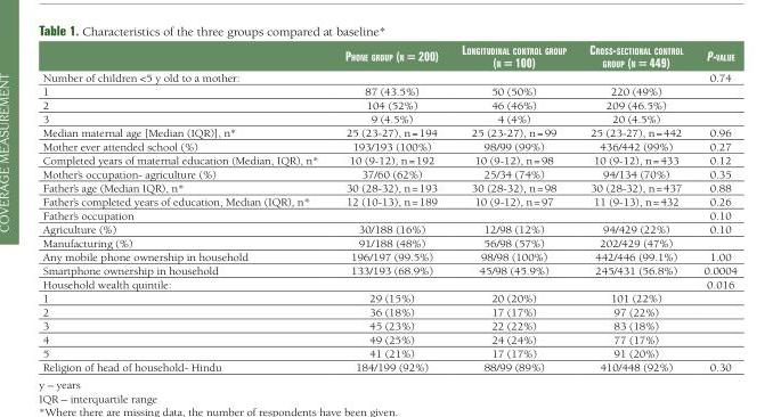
<table><thead><tr><td></td><td>Phone grouP (n = 200)</td><td>LongitudinaL controL grouP (n = 100)</td><td>cross-sectionaL controL grouP (n = 449)</td><td>P-vaLue</td></tr></thead><tbody><tr><td>Number of children &lt;5 y old to a mother:</td><td></td><td></td><td></td><td>0.74</td></tr><tr><td>1</td><td>87 (43.5%)</td><td>50 (50%)</td><td>220 (49%)</td><td></td></tr><tr><td>2</td><td>104 (52%)</td><td>46 (46%)</td><td>209 (46.5%)</td><td></td></tr><tr><td>3</td><td>9 (4.5%)</td><td>4 (4%)</td><td>20 (4.5%)</td><td></td></tr><tr><td>Median maternal age [Median (IQR)], n*</td><td>25 (23-27), n = 194</td><td>25 (23-27), n = 99</td><td>25 (23-27), n = 442</td><td>0.96</td></tr><tr><td>Mother ever attended school (%)</td><td>193/193 (100%)</td><td>98/99 (99%)</td><td>436/442 (99%)</td><td>0.27</td></tr><tr><td>Completed years of maternal education (Median, IQR), n*</td><td>10 (9-12), n = 192</td><td>10 (9-12), n = 98</td><td>10 (9-12), n = 433</td><td>0.12</td></tr><tr><td>Mother’s occupation- agriculture (%)</td><td>37/60 (62%)</td><td>25/34 (74%)</td><td>94/134 (70%)</td><td>0.35</td></tr><tr><td>Father’s age (Median IQR), n*</td><td>30 (28-32), n = 193</td><td>30 (28-32), n = 98</td><td>30 (28-32), n = 437</td><td>0.88</td></tr><tr><td>Father’s completed years of education, Median (IQR), n*</td><td>12 (10-13), n = 189</td><td>10 (9-12), n = 97</td><td>11 (9-13), n = 432</td><td>0.26</td></tr><tr><td>Father’s occupation</td><td></td><td></td><td></td><td>0.10</td></tr><tr><td>Agriculture (%)</td><td>30/188 (16%)</td><td>12/98 (12%)</td><td>94/429 (22%)</td><td>0.10</td></tr><tr><td>Manufacturing (%)</td><td>91/188 (48%)</td><td>56/98 (57%)</td><td>202/429 (47%)</td><td></td></tr><tr><td>Any mobile phone ownership in household</td><td>196/197 (99.5%)</td><td>98/98 (100%)</td><td>442/446 (99.1%)</td><td>1.00</td></tr><tr><td>Smartphone ownership in household</td><td>133/193 (68.9%)</td><td>45/98 (45.9%)</td><td>245/431 (56.8%)</td><td>0.0004</td></tr><tr><td>Household wealth quintile:</td><td></td><td></td><td></td><td>0.016</td></tr><tr><td>1</td><td>29 (15%)</td><td>20 (20%)</td><td>101 (22%)</td><td></td></tr><tr><td>2</td><td>36 (18%)</td><td>17 (17%)</td><td>97 (22%)</td><td></td></tr><tr><td>3</td><td>45 (23%)</td><td>22 (22%)</td><td>83 (18%)</td><td></td></tr><tr><td>4</td><td>49 (25%)</td><td>24 (24%)</td><td>77 (17%)</td><td></td></tr><tr><td>5</td><td>41 (21%)</td><td>17 (17%)</td><td>91 (20%)</td><td></td></tr><tr><td>Religion of head of household- Hindu</td><td>184/199 (92%)</td><td>88/99 (89%)</td><td>410/448 (92%)</td><td>0.30</td></tr></tbody></table>